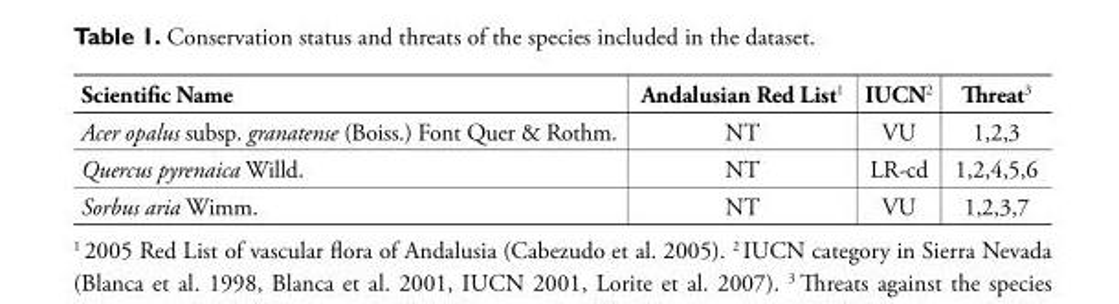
<table><thead><tr><td>Scientifi c Name</td><td>Andalusian Red List<sup>1</sup></td><td>IUCN<sup>2</sup></td><td>Th reat<sup>3</sup></td></tr></thead><tbody><tr><td>Acer opalus subsp. granatense (Boiss.) Font Quer &amp; Rothm.</td><td>NT</td><td>VU</td><td>1,2,3</td></tr><tr><td>Quercus pyrenaica Willd.</td><td>NT</td><td>LR-cd</td><td>1,2,4,5,6</td></tr><tr><td>Sorbus aria Wimm.</td><td>NT</td><td>VU</td><td>1,2,3,7</td></tr></tbody></table>